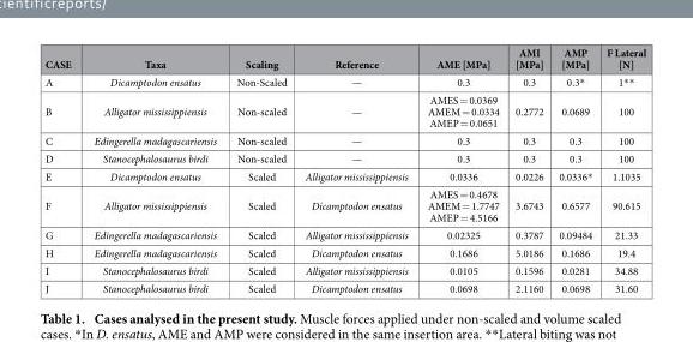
<table><thead><tr><td>CASE</td><td>Taxa</td><td>Scaling</td><td>Reference</td><td>AME [MPa]</td><td>AMI [MPa]</td><td>AMP [MPa]</td><td>F Lateral [N]</td></tr></thead><tbody><tr><td>A</td><td>Dicamptodon ensatus</td><td>Non-Scaled</td><td>—</td><td>0.3</td><td>0.3</td><td>0.3*</td><td>1**</td></tr><tr><td>B</td><td>Alligator mississippiensis</td><td>Non-scaled</td><td>—</td><td>AMES = 0.0369 AMEM = 0.0334 AMEP = 0.0651</td><td>0.2772</td><td>0.0689</td><td>100</td></tr><tr><td>C</td><td>Edingerella madagascariensis</td><td>Non-scaled</td><td>—</td><td>0.3</td><td>0.3</td><td>0.3</td><td>100</td></tr><tr><td>D</td><td>Stanocephalosaurus birdi</td><td>Non-scaled</td><td>—</td><td>0.3</td><td>0.3</td><td>0.3</td><td>100</td></tr><tr><td>E</td><td>Dicamptodon ensatus</td><td>Scaled</td><td>Alligator mississippiensis</td><td>0.0336</td><td>0.0226</td><td>0.0336*</td><td>1.1035</td></tr><tr><td>F</td><td>Alligator mississippiensis</td><td>Scaled</td><td>Dicamptodon ensatus</td><td>AMES = 0.4678 AMEM = 1.7747 AMEP = 4.5166</td><td>3.6743</td><td>0.6577</td><td>90.615</td></tr><tr><td>G</td><td>Edingerella madagascariensis</td><td>Scaled</td><td>Alligator mississippiensis</td><td>0.02325</td><td>0.3787</td><td>0.09484</td><td>21.33</td></tr><tr><td>H</td><td>Edingerella madagascariensis</td><td>Scaled</td><td>Dicamptodon ensatus</td><td>0.1686</td><td>5.0186</td><td>0.1686</td><td>19.4</td></tr><tr><td>I</td><td>Stanocephalosaurus birdi</td><td>Scaled</td><td>Alligator mississippiensis</td><td>0.0105</td><td>0.1596</td><td>0.0281</td><td>34.88</td></tr><tr><td>J</td><td>Stanocephalosaurus birdi</td><td>Scaled</td><td>Dicamptodon ensatus</td><td>0.0698</td><td>2.1160</td><td>0.0698</td><td>31.60</td></tr></tbody></table>